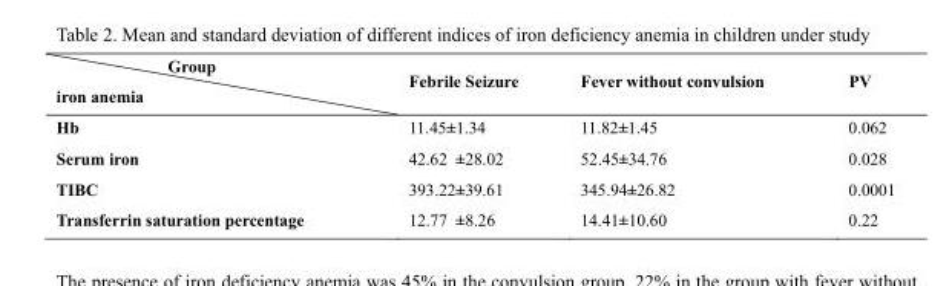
<table><thead><tr><td>Group iron anemia</td><td>Febrile Seizure</td><td>Fever without convulsion</td><td>PV</td></tr></thead><tbody><tr><td>Hb</td><td>11.45±1.34</td><td>11.82±1.45</td><td>0.062</td></tr><tr><td>Serum iron</td><td>42.62 ±28.02</td><td>52.45±34.76</td><td>0.028</td></tr><tr><td>TIBC</td><td>393.22±39.61</td><td>345.94±26.82</td><td>0.0001</td></tr><tr><td>Transferrin saturation percentage</td><td>12.77 ±8.26</td><td>14.41±10.60</td><td>0.22</td></tr></tbody></table>